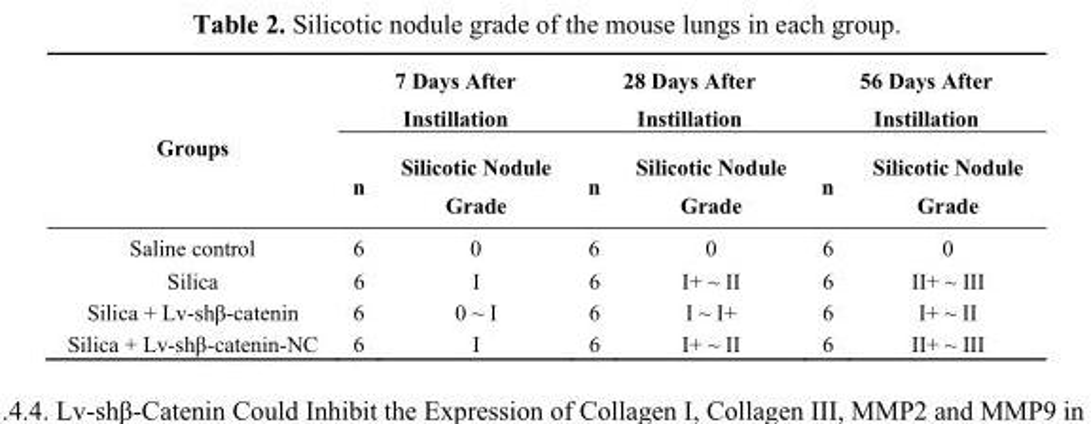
<table><thead><tr><td rowspan="2">Groups</td><td colspan="2">7 Days After Instillation</td><td colspan="2">28 Days After Instillation</td><td colspan="2">56 Days After Instillation</td></tr><tr><td>n</td><td>Silicotic Nodule Grade</td><td>n</td><td>Silicotic Nodule Grade</td><td>n</td><td>Silicotic Nodule Grade</td></tr></thead><tbody><tr><td>Saline control</td><td>6</td><td>0</td><td>6</td><td>0</td><td>6</td><td>0</td></tr><tr><td>Silica</td><td>6</td><td>I</td><td>6</td><td>I+ ~ II</td><td>6</td><td>II+ ~ III</td></tr><tr><td>Silica + Lv-shβ-catenin</td><td>6</td><td>0 ~ I</td><td>6</td><td>I ~ I+</td><td>6</td><td>I+ ~ II</td></tr><tr><td>Silica + Lv-shβ-catenin-NC</td><td>6</td><td>I</td><td>6</td><td>I+ ~ II</td><td>6</td><td>II+ ~ III</td></tr></tbody></table>